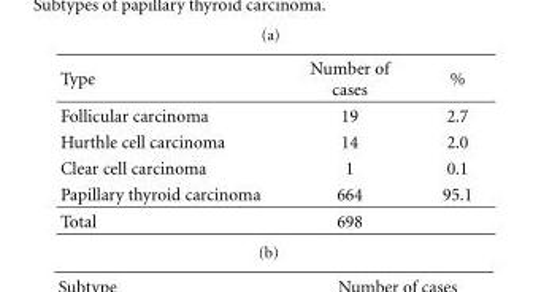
<table><thead><tr><td>Type</td><td>Number of cases</td><td>%</td></tr></thead><tbody><tr><td>Follicular carcinoma</td><td>19</td><td>2.7</td></tr><tr><td>Hurthle cell carcinoma</td><td>14</td><td>2.0</td></tr><tr><td>Clear cell carcinoma</td><td>1</td><td>0.1</td></tr><tr><td>Papillary thyroid carcinoma</td><td>664</td><td>95.1</td></tr><tr><td>Total</td><td>698</td><td></td></tr></tbody></table>